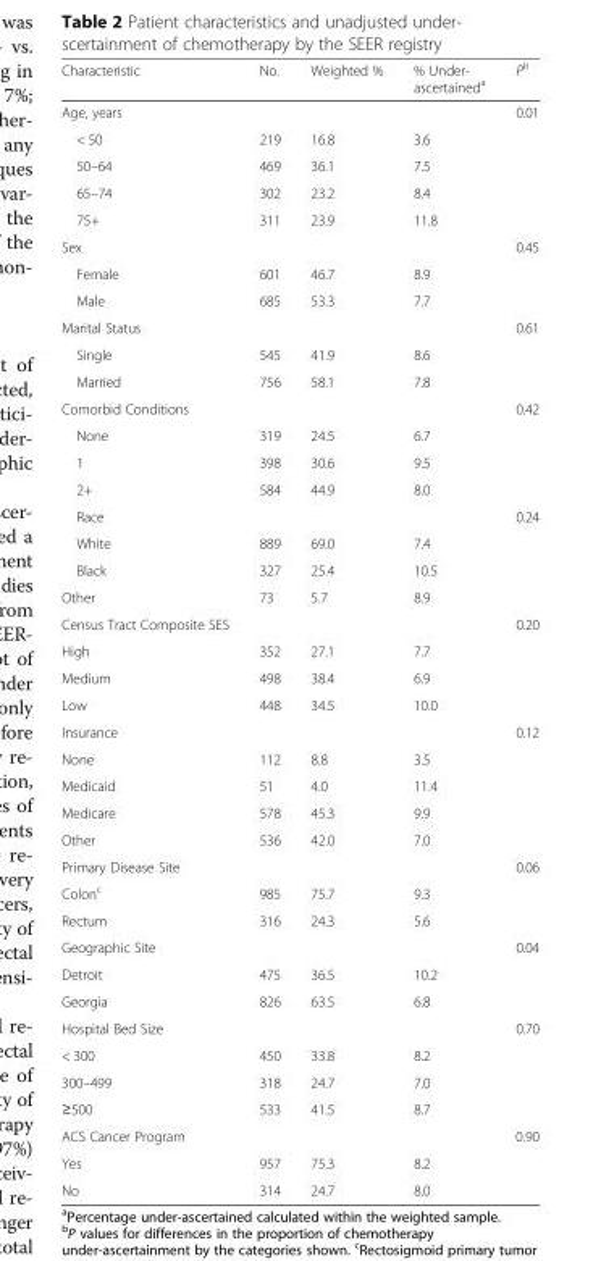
<table><thead><tr><td>Characteristic</td><td>No.</td><td>Weighted %</td><td>% Under- ascertained<sup>a</sup></td><td>P<sup>b</sup></td></tr></thead><tbody><tr><td>Age, years</td><td></td><td></td><td></td><td>0.01</td></tr><tr><td>&lt; 50</td><td>219</td><td>16.8</td><td>3.6</td><td></td></tr><tr><td>50–64</td><td>469</td><td>36.1</td><td>7.5</td><td></td></tr><tr><td>65–74</td><td>302</td><td>23.2</td><td>8.4</td><td></td></tr><tr><td>75+</td><td>311</td><td>23.9</td><td>11.8</td><td></td></tr><tr><td>Sex</td><td></td><td></td><td></td><td>0.45</td></tr><tr><td>Female</td><td>601</td><td>46.7</td><td>8.9</td><td></td></tr><tr><td>Male</td><td>685</td><td>53.3</td><td>7.7</td><td></td></tr><tr><td>Marital Status</td><td></td><td></td><td></td><td>0.61</td></tr><tr><td>Single</td><td>545</td><td>41.9</td><td>8.6</td><td></td></tr><tr><td>Married</td><td>756</td><td>58.1</td><td>7.8</td><td></td></tr><tr><td>Comorbid Conditions</td><td></td><td></td><td></td><td>0.42</td></tr><tr><td>None</td><td>319</td><td>24.5</td><td>6.7</td><td></td></tr><tr><td>1</td><td>398</td><td>30.6</td><td>9.5</td><td></td></tr><tr><td>2+</td><td>584</td><td>44.9</td><td>8.0</td><td></td></tr><tr><td>Race</td><td></td><td></td><td></td><td>0.24</td></tr><tr><td>White</td><td>889</td><td>69.0</td><td>7.4</td><td></td></tr><tr><td>Black</td><td>327</td><td>25.4</td><td>10.5</td><td></td></tr><tr><td>Other</td><td>73</td><td>5.7</td><td>8.9</td><td></td></tr><tr><td>Census Tract Composite SES</td><td></td><td></td><td></td><td>0.20</td></tr><tr><td>High</td><td>352</td><td>27.1</td><td>7.7</td><td></td></tr><tr><td>Medium</td><td>498</td><td>38.4</td><td>6.9</td><td></td></tr><tr><td>Low</td><td>448</td><td>34.5</td><td>10.0</td><td></td></tr><tr><td>Insurance</td><td></td><td></td><td></td><td>0.12</td></tr><tr><td>None</td><td>112</td><td>8.8</td><td>3.5</td><td></td></tr><tr><td>Medicaid</td><td>51</td><td>4.0</td><td>11.4</td><td></td></tr><tr><td>Medicare</td><td>578</td><td>45.3</td><td>9.9</td><td></td></tr><tr><td>Other</td><td>536</td><td>42.0</td><td>7.0</td><td></td></tr><tr><td>Primary Disease Site</td><td></td><td></td><td></td><td>0.06</td></tr><tr><td>Colon<sup>c</sup></td><td>985</td><td>75.7</td><td>9.3</td><td></td></tr><tr><td>Rectum</td><td>316</td><td>24.3</td><td>5.6</td><td></td></tr><tr><td>Geographic Site</td><td></td><td></td><td></td><td>0.04</td></tr><tr><td>Detroit</td><td>475</td><td>36.5</td><td>10.2</td><td></td></tr><tr><td>Georgia</td><td>826</td><td>63.5</td><td>6.8</td><td></td></tr><tr><td>Hospital Bed Size</td><td></td><td></td><td></td><td>0.70</td></tr><tr><td>&lt; 300</td><td>450</td><td>33.8</td><td>8.2</td><td></td></tr><tr><td>300–499</td><td>318</td><td>24.7</td><td>7.0</td><td></td></tr><tr><td>≥500</td><td>533</td><td>41.5</td><td>8.7</td><td></td></tr><tr><td>ACS Cancer Program</td><td></td><td></td><td></td><td>0.90</td></tr><tr><td>Yes</td><td>957</td><td>75.3</td><td>8.2</td><td></td></tr><tr><td>No</td><td>314</td><td>24.7</td><td>8.0</td><td></td></tr></tbody></table>